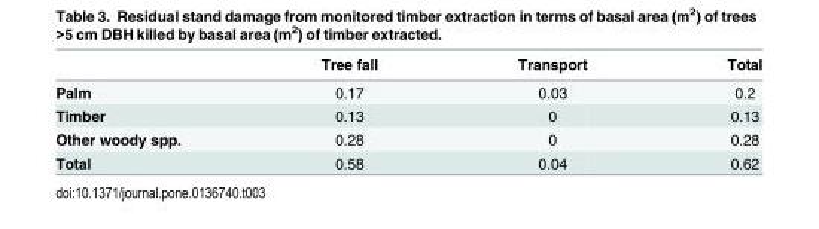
<table><thead><tr><td></td><td>Tree fall</td><td>Transport</td><td>Total</td></tr></thead><tbody><tr><td>Palm</td><td>0.17</td><td>0.03</td><td>0.2</td></tr><tr><td>Timber</td><td>0.13</td><td>0</td><td>0.13</td></tr><tr><td>Other woody spp.</td><td>0.28</td><td>0</td><td>0.28</td></tr><tr><td>Total</td><td>0.58</td><td>0.04</td><td>0.62</td></tr></tbody></table>